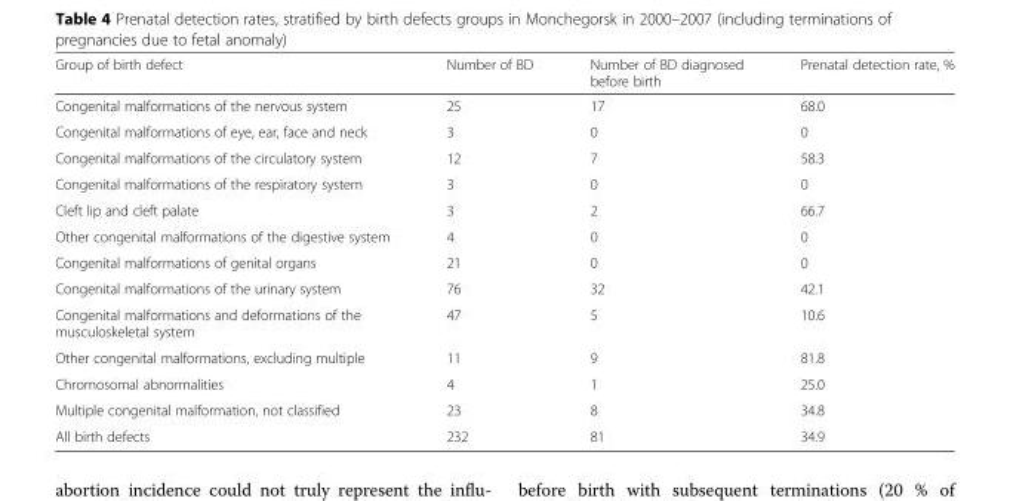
<table><thead><tr><td>Group of birth defect</td><td>Number of BD</td><td>Number of BD diagnosed before birth</td><td>Prenatal detection rate, %</td></tr></thead><tbody><tr><td>Congenital malformations of the nervous system</td><td>25</td><td>17</td><td>68.0</td></tr><tr><td>Congenital malformations of eye, ear, face and neck</td><td>3</td><td>0</td><td>0</td></tr><tr><td>Congenital malformations of the circulatory system</td><td>12</td><td>7</td><td>58.3</td></tr><tr><td>Congenital malformations of the respiratory system</td><td>3</td><td>0</td><td>0</td></tr><tr><td>Cleft lip and cleft palate</td><td>3</td><td>2</td><td>66.7</td></tr><tr><td>Other congenital malformations of the digestive system</td><td>4</td><td>0</td><td>0</td></tr><tr><td>Congenital malformations of genital organs</td><td>21</td><td>0</td><td>0</td></tr><tr><td>Congenital malformations of the urinary system</td><td>76</td><td>32</td><td>42.1</td></tr><tr><td>Congenital malformations and deformations of the musculoskeletal system</td><td>47</td><td>5</td><td>10.6</td></tr><tr><td>Other congenital malformations, excluding multiple</td><td>11</td><td>9</td><td>81.8</td></tr><tr><td>Chromosomal abnormalities</td><td>4</td><td>1</td><td>25.0</td></tr><tr><td>Multiple congenital malformation, not classified</td><td>23</td><td>8</td><td>34.8</td></tr><tr><td>All birth defects</td><td>232</td><td>81</td><td>34.9</td></tr></tbody></table>